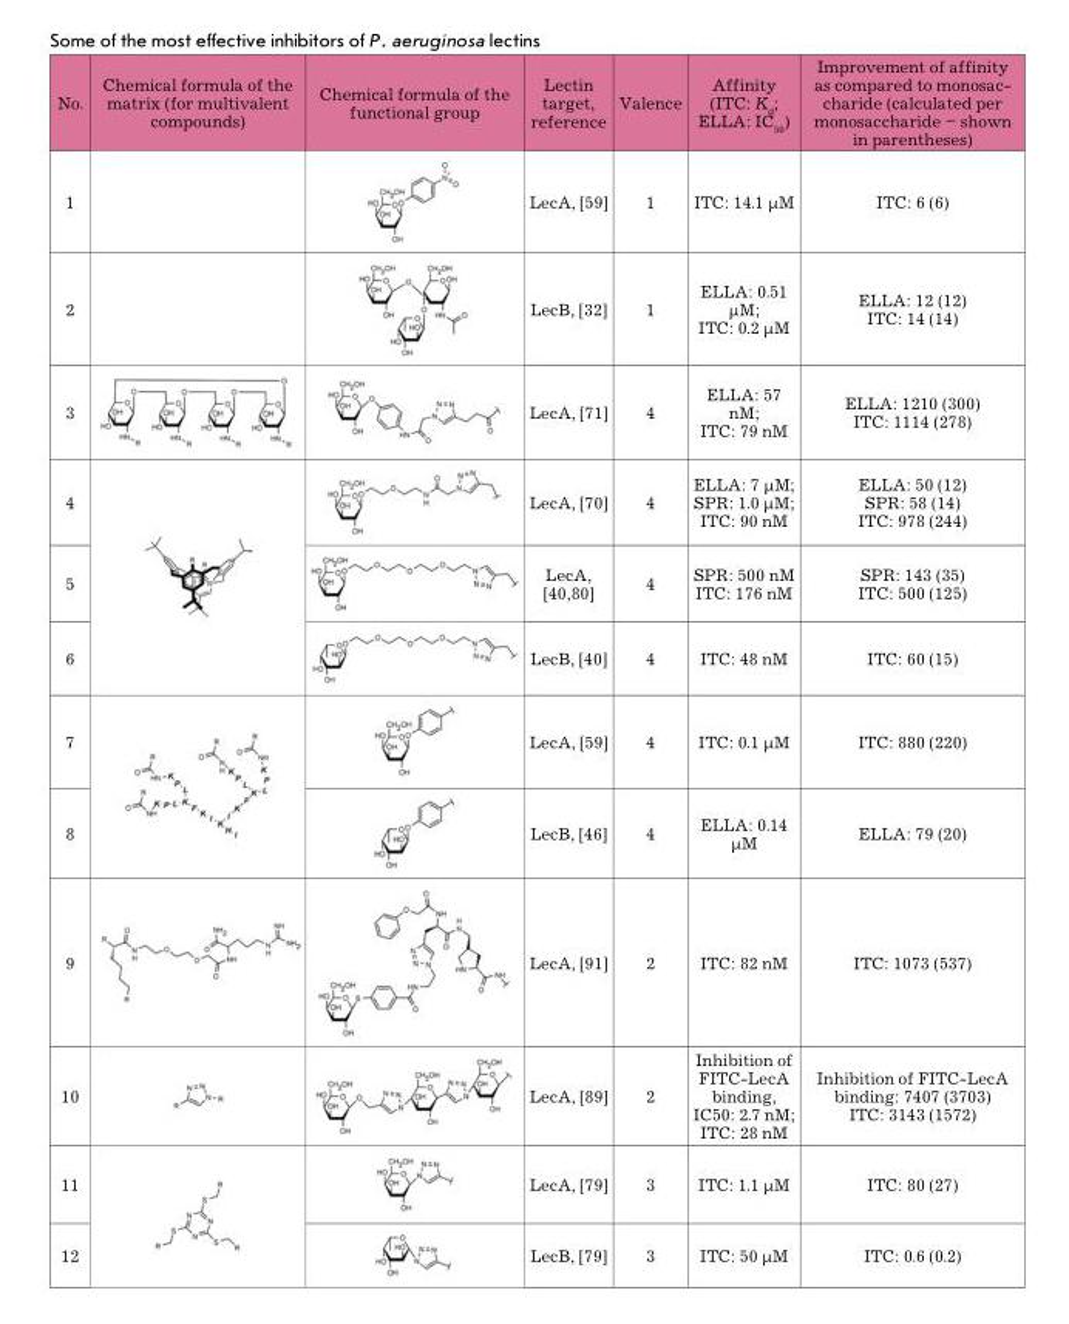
<table><thead><tr><td>No.</td><td>Chemical formula of the matrix (for multivalent compounds)</td><td>Chemical formula of the functional group</td><td>Lectin target, reference</td><td>Valence</td><td>Affinity (ITC: K<sub>d</sub>; ELLA: IC<sub>50</sub>)</td><td>Improvement of affinity as compared to monosac- charide (calculated per monosaccharide – shown in parentheses)</td></tr></thead><tbody><tr><td>1</td><td></td><td></td><td>LecA, [59]</td><td>1</td><td>ITC: 14.1 μM</td><td>ITC: 6 (6)</td></tr><tr><td>2</td><td></td><td></td><td>LecB, [32]</td><td>1</td><td>ELLA: 0.51 μM; ITC: 0.2 μM</td><td>ELLA: 12 (12) ITC: 14 (14)</td></tr><tr><td>3</td><td></td><td></td><td>LecA, [71]</td><td>4</td><td>ELLA: 57 nM; ITC: 79 nM</td><td>ELLA: 1210 (300) ITC: 1114 (278)</td></tr><tr><td>4</td><td rowspan="3"></td><td></td><td>LecA, [70]</td><td>4</td><td>ELLA: 7 μM; SPR: 1.0 μM; ITC: 90 nM</td><td>ELLA: 50 (12) SPR: 58 (14) ITC: 978 (244)</td></tr><tr><td>5</td><td></td><td>LecA, [40,80]</td><td>4</td><td>SPR: 500 nM ITC: 176 nM</td><td>SPR: 143 (35) ITC: 500 (125)</td></tr><tr><td>6</td><td></td><td>LecB, [40]</td><td>4</td><td>ITC: 48 nM</td><td>ITC: 60 (15)</td></tr><tr><td>7</td><td rowspan="2"></td><td></td><td>LecA, [59]</td><td>4</td><td>ITC: 0.1 μM</td><td>ITC: 880 (220)</td></tr><tr><td>8</td><td></td><td>LecB, [46]</td><td>4</td><td>ELLA: 0.14 μM</td><td>ELLA: 79 (20)</td></tr><tr><td>9</td><td></td><td></td><td>LecA, [91]</td><td>2</td><td>ITC: 82 nM</td><td>ITC: 1073 (537)</td></tr><tr><td>10</td><td></td><td></td><td>LecA, [89]</td><td>2</td><td>Inhibition of FITC-LecA binding, IC<sub>50</sub>: 2.7 nM; ITC: 28 nM</td><td>Inhibition of FITC-LecA binding: 7407 (3703) ITC: 3143 (1572)</td></tr><tr><td>11</td><td rowspan="2"></td><td></td><td>LecA, [79]</td><td>3</td><td>ITC: 1.1 μM</td><td>ITC: 80 (27)</td></tr><tr><td>12</td><td></td><td>LecB, [79]</td><td>3</td><td>ITC: 50 μM</td><td>ITC: 0.6 (0.2)</td></tr></tbody></table>